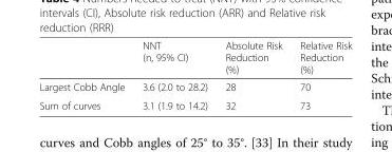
<table><thead><tr><td></td><td>NNT (n, 95% CI)</td><td>Absolute Risk Reduction (%)</td><td>Relative Risk Reduction (%)</td></tr></thead><tbody><tr><td>Largest Cobb Angle</td><td>3.6 (2.0 to 28.2)</td><td>28</td><td>70</td></tr><tr><td>Sum of curves</td><td>3.1 (1.9 to 14.2)</td><td>32</td><td>73</td></tr></tbody></table>